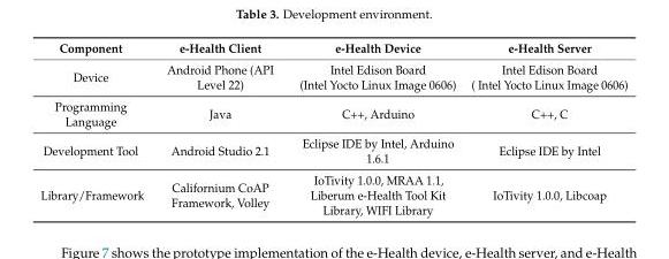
<table><thead><tr><td>Component</td><td>e-Health Client</td><td>e-Health Device</td><td>e-Health Server</td></tr></thead><tbody><tr><td>Device</td><td>Android Phone (API Level 22)</td><td>Intel Edison Board (Intel Yocto Linux Image 0606)</td><td>Intel Edison Board ( Intel Yocto Linux Image 0606)</td></tr><tr><td>Programming Language</td><td>Java</td><td>C++, Arduino</td><td>C++, C</td></tr><tr><td>Development Tool</td><td>Android Studio 2.1</td><td>Eclipse IDE by Intel, Arduino 1.6.1</td><td>Eclipse IDE by Intel</td></tr><tr><td>Library/Framework</td><td>Californium CoAP Framework, Volley</td><td>IoTivity 1.0.0, MRAA 1.1, Liberum e-Health Tool Kit Library, WIFI Library</td><td>IoTivity 1.0.0, Libcoap</td></tr></tbody></table>